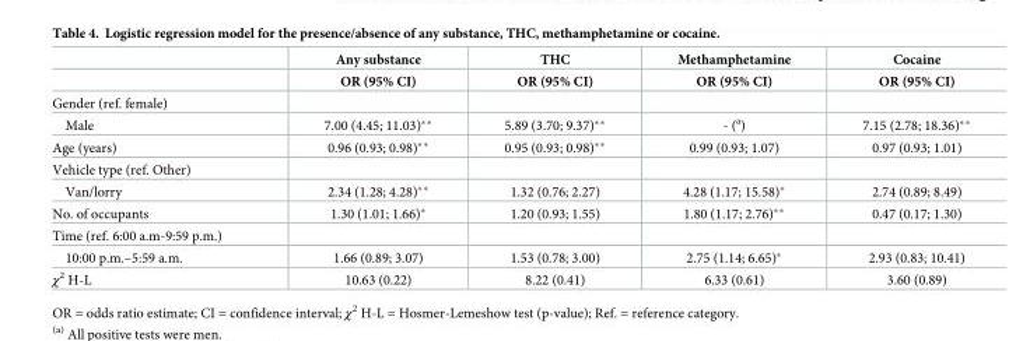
<table><thead><tr><td rowspan="2"></td><td rowspan="2">Any substance OR (95% CI)</td><td rowspan="2">THC OR (95% CI)</td><td rowspan="2">Methamphetamine OR (95% CI)</td><td rowspan="2">Cocaine OR (95% CI)</td></tr><tr></tr></thead><tbody><tr><td colspan="5">Gender (ref. female)</td></tr><tr><td>Male</td><td>7.00 (4.45; 11.03)**</td><td>5.89 (3.70; 9.37)**</td><td>- (<sup>a</sup>)</td><td>7.15 (2.78; 18.36)**</td></tr><tr><td>Age (years)</td><td>0.96 (0.93; 0.98)**</td><td>0.95 (0.93; 0.98)**</td><td>0.99 (0.93; 1.07)</td><td>0.97 (0.93; 1.01)</td></tr><tr><td colspan="5">Vehicle type (ref. Other)</td></tr><tr><td>Van/lorry</td><td>2.34 (1.28; 4.28)**</td><td>1.32 (0.76; 2.27)</td><td>4.28 (1.17; 15.58)*</td><td>2.74 (0.89; 8.49)</td></tr><tr><td>No. of occupants</td><td>1.30 (1.01; 1.66)*</td><td>1.20 (0.93; 1.55)</td><td>1.80 (1.17; 2.76)**</td><td>0.47 (0.17; 1.30)</td></tr><tr><td colspan="5">Time (ref. 6:00 a.m-9:59 p.m.)</td></tr><tr><td>10:00 p.m.–5:59 a.m.</td><td>1.66 (0.89; 3.07)</td><td>1.53 (0.78; 3.00)</td><td>2.75 (1.14; 6.65)*</td><td>2.93 (0.83; 10.41)</td></tr><tr><td>χ<sup>2</sup> H-L</td><td>10.63 (0.22)</td><td>8.22 (0.41)</td><td>6.33 (0.61)</td><td>3.60 (0.89)</td></tr></tbody></table>